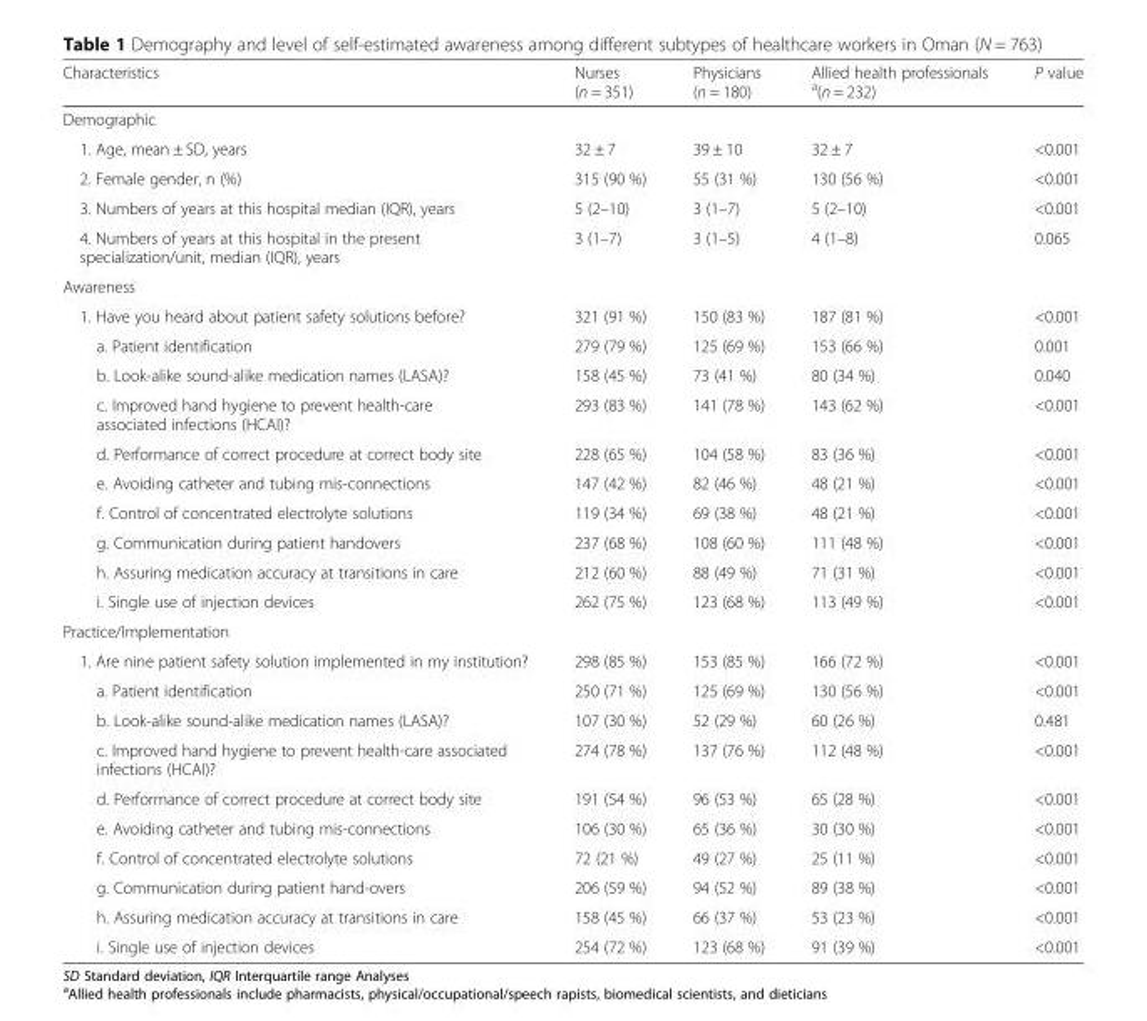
<table><thead><tr><td>Characteristics</td><td>Nurses (n = 351)</td><td>Physicians (n = 180)</td><td>Allied health professionals <sup>a</sup>(n = 232)</td><td>P value</td></tr></thead><tbody><tr><td colspan="5">Demographic</td></tr><tr><td>1. Age, mean ± SD, years</td><td>32 ± 7</td><td>39 ± 10</td><td>32 ± 7</td><td>&lt;0.001</td></tr><tr><td>2. Female gender, n (%)</td><td>315 (90 %)</td><td>55 (31 %)</td><td>130 (56 %)</td><td>&lt;0.001</td></tr><tr><td>3. Numbers of years at this hospital median (IQR), years</td><td>5 (2–10)</td><td>3 (1–7)</td><td>5 (2–10)</td><td>&lt;0.001</td></tr><tr><td>4. Numbers of years at this hospital in the present specialization/unit, median (IQR), years</td><td>3 (1–7)</td><td>3 (1–5)</td><td>4 (1–8)</td><td>0.065</td></tr><tr><td colspan="5">Awareness</td></tr><tr><td>1. Have you heard about patient safety solutions before?</td><td>321 (91 %)</td><td>150 (83 %)</td><td>187 (81 %)</td><td>&lt;0.001</td></tr><tr><td>a. Patient identification</td><td>279 (79 %)</td><td>125 (69 %)</td><td>153 (66 %)</td><td>0.001</td></tr><tr><td>b. Look-alike sound-alike medication names (LASA)?</td><td>158 (45 %)</td><td>73 (41 %)</td><td>80 (34 %)</td><td>0.040</td></tr><tr><td>c. Improved hand hygiene to prevent health-care associated infections (HCAI)?</td><td>293 (83 %)</td><td>141 (78 %)</td><td>143 (62 %)</td><td>&lt;0.001</td></tr><tr><td>d. Performance of correct procedure at correct body site</td><td>228 (65 %)</td><td>104 (58 %)</td><td>83 (36 %)</td><td>&lt;0.001</td></tr><tr><td>e. Avoiding catheter and tubing mis-connections</td><td>147 (42 %)</td><td>82 (46 %)</td><td>48 (21 %)</td><td>&lt;0.001</td></tr><tr><td>f. Control of concentrated electrolyte solutions</td><td>119 (34 %)</td><td>69 (38 %)</td><td>48 (21 %)</td><td>&lt;0.001</td></tr><tr><td>g. Communication during patient handovers</td><td>237 (68 %)</td><td>108 (60 %)</td><td>111 (48 %)</td><td>&lt;0.001</td></tr><tr><td>h. Assuring medication accuracy at transitions in care</td><td>212 (60 %)</td><td>88 (49 %)</td><td>71 (31 %)</td><td>&lt;0.001</td></tr><tr><td>i. Single use of injection devices</td><td>262 (75 %)</td><td>123 (68 %)</td><td>113 (49 %)</td><td>&lt;0.001</td></tr><tr><td colspan="5">Practice/Implementation</td></tr><tr><td>1. Are nine patient safety solution implemented in my institution?</td><td>298 (85 %)</td><td>153 (85 %)</td><td>166 (72 %)</td><td>&lt;0.001</td></tr><tr><td>a. Patient identification</td><td>250 (71 %)</td><td>125 (69 %)</td><td>130 (56 %)</td><td>&lt;0.001</td></tr><tr><td>b. Look-alike sound-alike medication names (LASA)?</td><td>107 (30 %)</td><td>52 (29 %)</td><td>60 (26 %)</td><td>0.481</td></tr><tr><td>c. Improved hand hygiene to prevent health-care associated infections (HCAI)?</td><td>274 (78 %)</td><td>137 (76 %)</td><td>112 (48 %)</td><td>&lt;0.001</td></tr><tr><td>d. Performance of correct procedure at correct body site</td><td>191 (54 %)</td><td>96 (53 %)</td><td>65 (28 %)</td><td>&lt;0.001</td></tr><tr><td>e. Avoiding catheter and tubing mis-connections</td><td>106 (30 %)</td><td>65 (36 %)</td><td>30 (30 %)</td><td>&lt;0.001</td></tr><tr><td>f. Control of concentrated electrolyte solutions</td><td>72 (21 %)</td><td>49 (27 %)</td><td>25 (11 %)</td><td>&lt;0.001</td></tr><tr><td>g. Communication during patient hand-overs</td><td>206 (59 %)</td><td>94 (52 %)</td><td>89 (38 %)</td><td>&lt;0.001</td></tr><tr><td>h. Assuring medication accuracy at transitions in care</td><td>158 (45 %)</td><td>66 (37 %)</td><td>53 (23 %)</td><td>&lt;0.001</td></tr><tr><td>i. Single use of injection devices</td><td>254 (72 %)</td><td>123 (68 %)</td><td>91 (39 %)</td><td>&lt;0.001</td></tr></tbody></table>